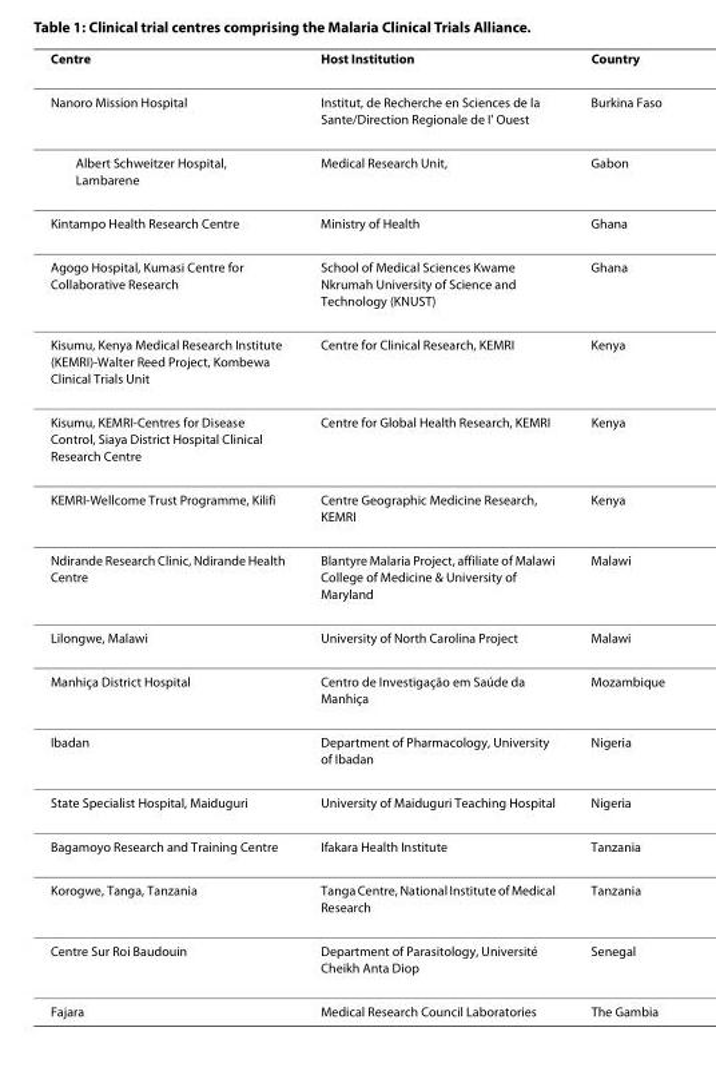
<table><thead><tr><td>Centre</td><td>Host Institution</td><td>Country</td></tr></thead><tbody><tr><td>Nanoro Mission Hospital</td><td>Institut, de Recherche en Sciences de la Sante/Direction Regionale de I&#x27; Ouest</td><td>Burkina Faso</td></tr><tr><td>Albert Schweitzer Hospital, Lambarene</td><td>Medical Research Unit,</td><td>Gabon</td></tr><tr><td>Kintampo Health Research Centre</td><td>Ministry of Health</td><td>Ghana</td></tr><tr><td>Agogo Hospital, Kumasi Centre for Collaborative Research</td><td>School of Medical Sciences Kwame Nkrumah University of Science and Technology (KNUST)</td><td>Ghana</td></tr><tr><td>Kisumu, Kenya Medical Research Institute (KEMRI)-Walter Reed Project, Kombewa Clinical Trials Unit</td><td>Centre for Clinical Research, KEMRI</td><td>Kenya</td></tr><tr><td>Kisumu, KEMRI-Centres for Disease Control, Siaya District Hospital Clinical Research Centre</td><td>Centre for Global Health Research, KEMRI</td><td>Kenya</td></tr><tr><td>KEMRI-Wellcome Trust Programme, Kilifi</td><td>Centre Geographic Medicine Research, KEMRI</td><td>Kenya</td></tr><tr><td>Ndirande Research Clinic, Ndirande Health Centre</td><td>Blantyre Malaria Project, affiliate of Malawi College of Medicine &amp; University of Maryland</td><td>Malawi</td></tr><tr><td>Lilongwe, Malawi</td><td>University of North Carolina Project</td><td>Malawi</td></tr><tr><td>Manhiça District Hospital</td><td>Centro de Investigação em Saúde da Manhiça</td><td>Mozambique</td></tr><tr><td>Ibadan</td><td>Department of Pharmacology, University of Ibadan</td><td>Nigeria</td></tr><tr><td>State Specialist Hospital, Maiduguri</td><td>University of Maiduguri Teaching Hospital</td><td>Nigeria</td></tr><tr><td>Bagamoyo Research and Training Centre</td><td>Ifakara Health Institute</td><td>Tanzania</td></tr><tr><td>Korogwe, Tanga, Tanzania</td><td>Tanga Centre, National Institute of Medical Research</td><td>Tanzania</td></tr><tr><td>Centre Sur Roi Baudouin</td><td>Department of Parasitology, Université Cheikh Anta Diop</td><td>Senegal</td></tr><tr><td>Fajara</td><td>Medical Research Council Laboratories</td><td>The Gambia</td></tr></tbody></table>